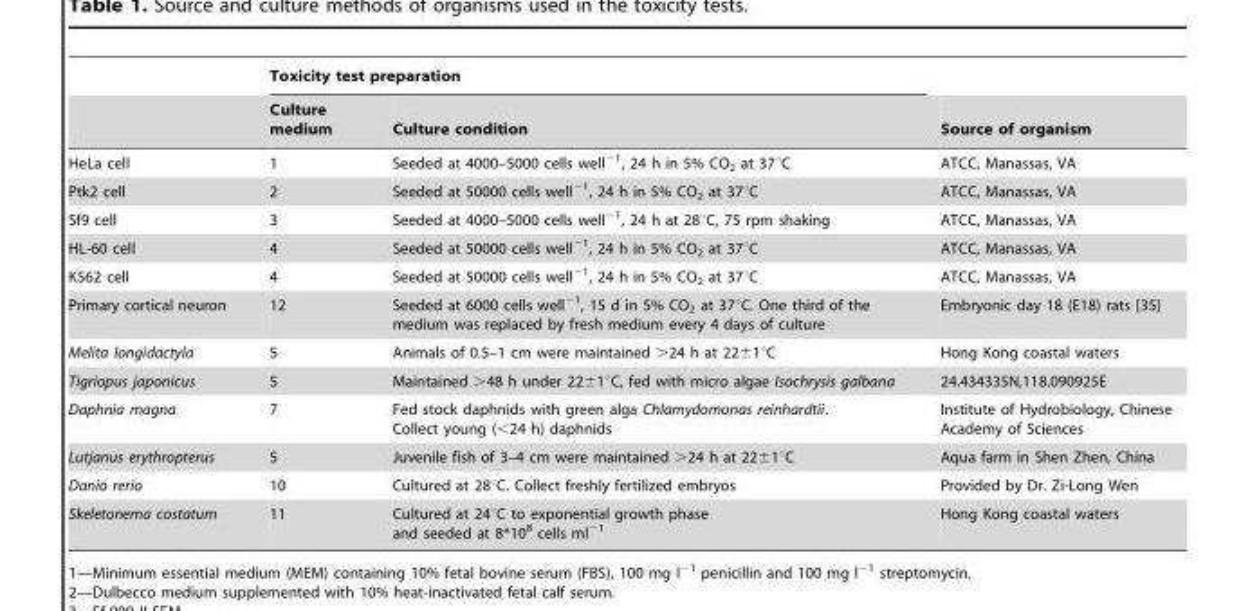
<table><thead><tr><td rowspan="2"></td><td colspan="2">Toxicity test preparation</td><td rowspan="2">Source of organism</td></tr><tr><td>Culture medium</td><td>Culture condition</td></tr></thead><tbody><tr><td>HeLa cell</td><td>1</td><td>Seeded at 4000–5000 cells well<sup>−1</sup>, 24 h in 5% CO<sub>2</sub> at 37°C</td><td>ATCC, Manassas, VA</td></tr><tr><td>Ptk2 cell</td><td>2</td><td>Seeded at 50000 cells well<sup>−1</sup>, 24 h in 5% CO<sub>2</sub> at 37°C</td><td>ATCC, Manassas, VA</td></tr><tr><td>Sf9 cell</td><td>3</td><td>Seeded at 4000–5000 cells well<sup>−1</sup>, 24 h at 28°C, 75 rpm shaking</td><td>ATCC, Manassas, VA</td></tr><tr><td>HL-60 cell</td><td>4</td><td>Seeded at 50000 cells well<sup>−1</sup>, 24 h in 5% CO<sub>2</sub> at 37°C</td><td>ATCC, Manassas, VA</td></tr><tr><td>K562 cell</td><td>4</td><td>Seeded at 50000 cells well<sup>−1</sup>, 24 h in 5% CO<sub>2</sub> at 37°C</td><td>ATCC, Manassas, VA</td></tr><tr><td>Primary cortical neuron</td><td>12</td><td>Seeded at 6000 cells well<sup>−1</sup>, 15 d in 5% CO<sub>2</sub> at 37°C. One third of the medium was replaced by fresh medium every 4 days of culture</td><td>Embryonic day 18 (E18) rats [35]</td></tr><tr><td>Melita longidactyla</td><td>5</td><td>Animals of 0.5–1 cm were maintained &gt;24 h at 22±1°C</td><td>Hong Kong coastal waters</td></tr><tr><td>Tigriopus japonicus</td><td>5</td><td>Maintained &gt;48 h under 22±1°C, fed with micro algae Isochrysis galbana</td><td>24.434335N,118.090925E</td></tr><tr><td>Daphnia magna</td><td>7</td><td>Fed stock daphnids with green alga Chlamydomonas reinhardtii. Collect young (&lt;24 h) daphnids</td><td>Institute of Hydrobiology, Chinese Academy of Sciences</td></tr><tr><td>Lutjanus erythropterus</td><td>5</td><td>Juvenile fish of 3–4 cm were maintained &gt;24 h at 22±1°C</td><td>Aqua farm in Shen Zhen, China</td></tr><tr><td>Danio rerio</td><td>10</td><td>Cultured at 28°C. Collect freshly fertilized embryos</td><td>Provided by Dr. Zi-Long Wen</td></tr><tr><td>Skeletonema costatum</td><td>11</td><td>Cultured at 24°C to exponential growth phase and seeded at 8*10<sup>8</sup> cells ml<sup>−1</sup></td><td>Hong Kong coastal waters</td></tr></tbody></table>